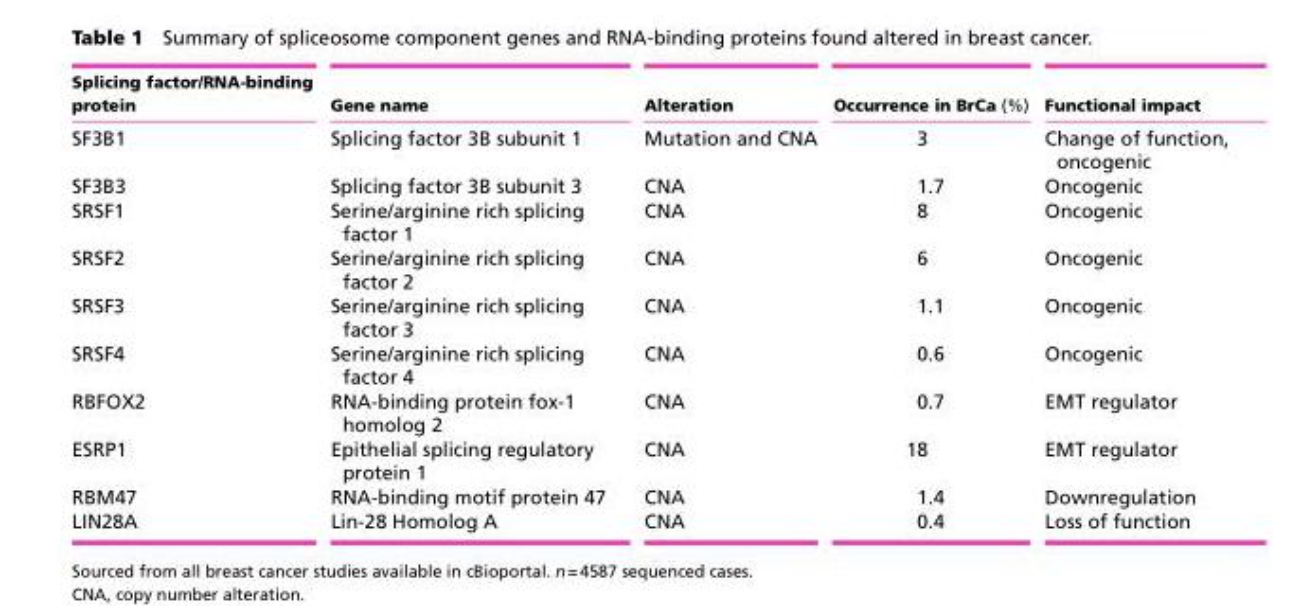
<table><thead><tr><td>Splicing factor/RNA-binding protein</td><td>Gene name</td><td>Alteration</td><td>Occurrence in BrCa (%)</td><td>Functional impact</td></tr></thead><tbody><tr><td>SF3B1</td><td>Splicing factor 3B subunit 1</td><td>Mutation and CNA</td><td>3</td><td>Change of function, oncogenic</td></tr><tr><td>SF3B3</td><td>Splicing factor 3B subunit 3</td><td>CNA</td><td>1.7</td><td>Oncogenic</td></tr><tr><td>SRSF1</td><td>Serine/arginine rich splicing factor 1</td><td>CNA</td><td>8</td><td>Oncogenic</td></tr><tr><td>SRSF2</td><td>Serine/arginine rich splicing factor 2</td><td>CNA</td><td>6</td><td>Oncogenic</td></tr><tr><td>SRSF3</td><td>Serine/arginine rich splicing factor 3</td><td>CNA</td><td>1.1</td><td>Oncogenic</td></tr><tr><td>SRSF4</td><td>Serine/arginine rich splicing factor 4</td><td>CNA</td><td>0.6</td><td>Oncogenic</td></tr><tr><td>RBFOX2</td><td>RNA-binding protein fox-1 homolog 2</td><td>CNA</td><td>0.7</td><td>EMT regulator</td></tr><tr><td>ESRP1</td><td>Epithelial splicing regulatory protein 1</td><td>CNA</td><td>18</td><td>EMT regulator</td></tr><tr><td>RBM47</td><td>RNA-binding motif protein 47</td><td>CNA</td><td>1.4</td><td>Downregulation</td></tr><tr><td>LIN28A</td><td>Lin-28 Homolog A</td><td>CNA</td><td>0.4</td><td>Loss of function</td></tr></tbody></table>